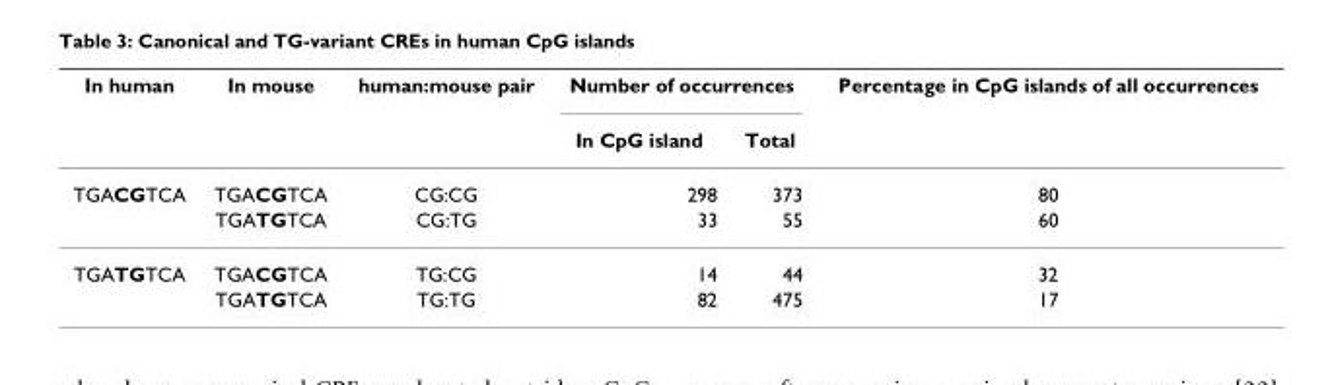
<table><thead><tr><td rowspan="2">In human</td><td rowspan="2">In mouse</td><td rowspan="2">human:mouse pair</td><td colspan="2">Number of occurrences</td><td rowspan="2">Percentage in CpG islands of all occurrences</td></tr><tr><td>In CpG island</td><td>Total</td></tr></thead><tbody><tr><td rowspan="2">TGACGTCA</td><td>TGACGTCA</td><td>CG:CG</td><td>298</td><td>373</td><td>80</td></tr><tr><td>TGATGTCA</td><td>CG:TG</td><td>33</td><td>55</td><td>60</td></tr><tr><td rowspan="2">TGATGTCA</td><td>TGACGTCA</td><td>TG:CG</td><td>14</td><td>44</td><td>32</td></tr><tr><td>TGATGTCA</td><td>TG:TG</td><td>82</td><td>475</td><td>17</td></tr></tbody></table>